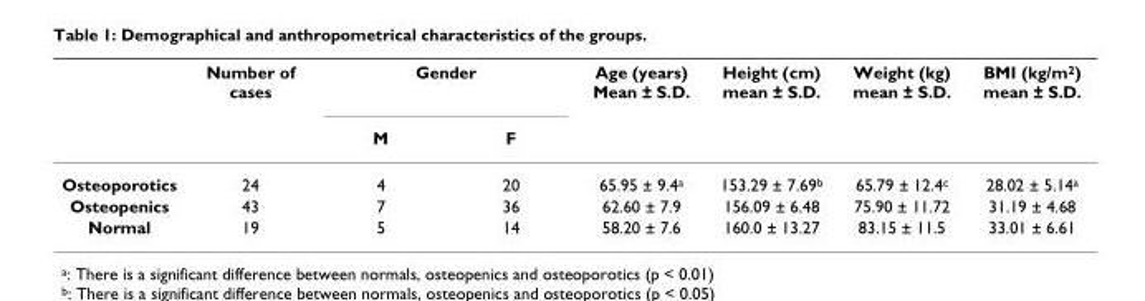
<table><thead><tr><td rowspan="2"></td><td rowspan="2">Number of cases</td><td colspan="2">Gender</td><td rowspan="2">Age (years) Mean ± S.D.</td><td rowspan="2">Height (cm) mean ± S.D.</td><td rowspan="2">Weight (kg) mean ± S.D.</td><td rowspan="2">BMI (kg/m<sup>2</sup>) mean ± S.D.</td></tr><tr><td>M</td><td>F</td></tr></thead><tbody><tr><td>Osteoporotics</td><td>24</td><td>4</td><td>20</td><td>65.95 ± 9.4<sup>a</sup></td><td>153.29 ± 7.69<sup>b</sup></td><td>65.79 ± 12.4<sup>c</sup></td><td>28.02 ± 5.14<sup>a</sup></td></tr><tr><td>Osteopenics</td><td>43</td><td>7</td><td>36</td><td>62.60 ± 7.9</td><td>156.09 ± 6.48</td><td>75.90 ± 11.72</td><td>31.19 ± 4.68</td></tr><tr><td>Normal</td><td>19</td><td>5</td><td>14</td><td>58.20 ± 7.6</td><td>160.0 ± 13.27</td><td>83.15 ± 11.5</td><td>33.01 ± 6.61</td></tr></tbody></table>